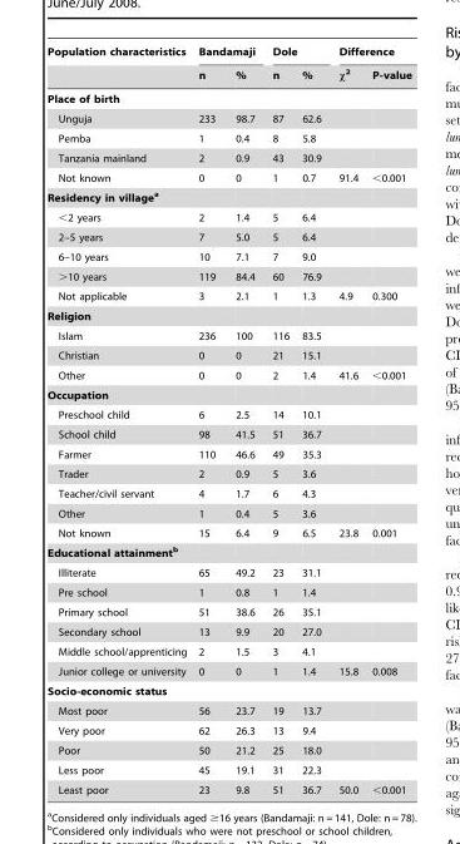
<table><thead><tr><td rowspan="2">Population characteristics</td><td colspan="2">Bandamaji</td><td colspan="2">Dole</td><td colspan="2">Difference</td></tr><tr><td>n</td><td>%</td><td>n</td><td>%</td><td>χ<sup>2</sup></td><td>P-value</td></tr></thead><tbody><tr><td colspan="7">Place of birth</td></tr><tr><td>Unguja</td><td>233</td><td>98.7</td><td>87</td><td>62.6</td><td></td><td></td></tr><tr><td>Pemba</td><td>1</td><td>0.4</td><td>8</td><td>5.8</td><td></td><td></td></tr><tr><td>Tanzania mainland</td><td>2</td><td>0.9</td><td>43</td><td>30.9</td><td></td><td></td></tr><tr><td>Not known</td><td>0</td><td>0</td><td>1</td><td>0.7</td><td>91.4</td><td>&lt;0.001</td></tr><tr><td colspan="7">Residency in villagea</td></tr><tr><td>&lt;2 years</td><td>2</td><td>1.4</td><td>5</td><td>6.4</td><td></td><td></td></tr><tr><td>2–5 years</td><td>7</td><td>5.0</td><td>5</td><td>6.4</td><td></td><td></td></tr><tr><td>6–10 years</td><td>10</td><td>7.1</td><td>7</td><td>9.0</td><td></td><td></td></tr><tr><td>&gt;10 years</td><td>119</td><td>84.4</td><td>60</td><td>76.9</td><td></td><td></td></tr><tr><td>Not applicable</td><td>3</td><td>2.1</td><td>1</td><td>1.3</td><td>4.9</td><td>0.300</td></tr><tr><td colspan="7">Religion</td></tr><tr><td>Islam</td><td>236</td><td>100</td><td>116</td><td>83.5</td><td></td><td></td></tr><tr><td>Christian</td><td>0</td><td>0</td><td>21</td><td>15.1</td><td></td><td></td></tr><tr><td>Other</td><td>0</td><td>0</td><td>2</td><td>1.4</td><td>41.6</td><td>&lt;0.001</td></tr><tr><td colspan="7">Occupation</td></tr><tr><td>Preschool child</td><td>6</td><td>2.5</td><td>14</td><td>10.1</td><td></td><td></td></tr><tr><td>School child</td><td>98</td><td>41.5</td><td>51</td><td>36.7</td><td></td><td></td></tr><tr><td>Farmer</td><td>110</td><td>46.6</td><td>49</td><td>35.3</td><td></td><td></td></tr><tr><td>Trader</td><td>2</td><td>0.9</td><td>5</td><td>3.6</td><td></td><td></td></tr><tr><td>Teacher/civil servant</td><td>4</td><td>1.7</td><td>6</td><td>4.3</td><td></td><td></td></tr><tr><td>Other</td><td>1</td><td>0.4</td><td>5</td><td>3.6</td><td></td><td></td></tr><tr><td>Not known</td><td>15</td><td>6.4</td><td>9</td><td>6.5</td><td>23.8</td><td>0.001</td></tr><tr><td colspan="7">Educational attainmentb</td></tr><tr><td>Illiterate</td><td>65</td><td>49.2</td><td>23</td><td>31.1</td><td></td><td></td></tr><tr><td>Pre school</td><td>1</td><td>0.8</td><td>1</td><td>1.4</td><td></td><td></td></tr><tr><td>Primary school</td><td>51</td><td>38.6</td><td>26</td><td>35.1</td><td></td><td></td></tr><tr><td>Secondary school</td><td>13</td><td>9.9</td><td>20</td><td>27.0</td><td></td><td></td></tr><tr><td>Middle school/apprenticing</td><td>2</td><td>1.5</td><td>3</td><td>4.1</td><td></td><td></td></tr><tr><td>Junior college or university</td><td>0</td><td>0</td><td>1</td><td>1.4</td><td>15.8</td><td>0.008</td></tr><tr><td colspan="7">Socio-economic status</td></tr><tr><td>Most poor</td><td>56</td><td>23.7</td><td>19</td><td>13.7</td><td></td><td></td></tr><tr><td>Very poor</td><td>62</td><td>26.3</td><td>13</td><td>9.4</td><td></td><td></td></tr><tr><td>Poor</td><td>50</td><td>21.2</td><td>25</td><td>18.0</td><td></td><td></td></tr><tr><td>Less poor</td><td>45</td><td>19.1</td><td>31</td><td>22.3</td><td></td><td></td></tr><tr><td>Least poor</td><td>23</td><td>9.8</td><td>51</td><td>36.7</td><td>50.0</td><td>&lt;0.001</td></tr></tbody></table>